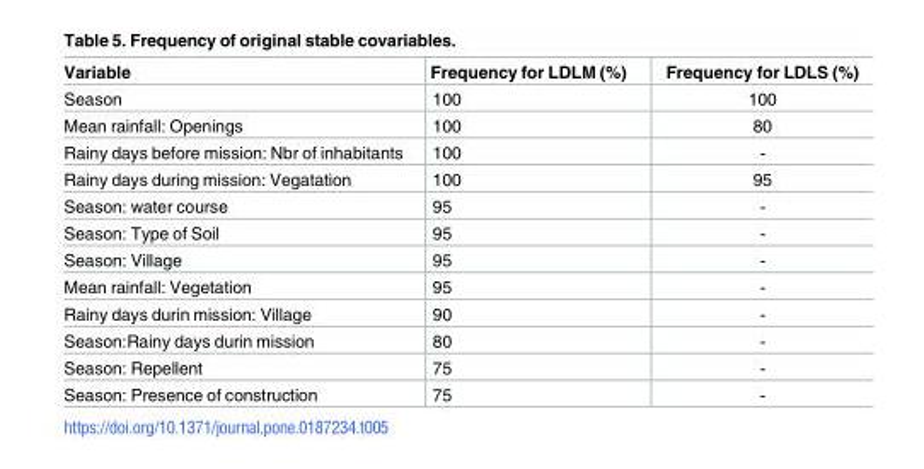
<table><thead><tr><td>Variable</td><td>Frequency for LDLM (%)</td><td>Frequency for LDLS (%)</td></tr></thead><tbody><tr><td>Season</td><td>100</td><td>100</td></tr><tr><td>Mean rainfall: Openings</td><td>100</td><td>80</td></tr><tr><td>Rainy days before mission: Nbr of inhabitants</td><td>100</td><td>-</td></tr><tr><td>Rainy days during mission: Vegatation</td><td>100</td><td>95</td></tr><tr><td>Season: water course</td><td>95</td><td>-</td></tr><tr><td>Season: Type of Soil</td><td>95</td><td>-</td></tr><tr><td>Season: Village</td><td>95</td><td>-</td></tr><tr><td>Mean rainfall: Vegetation</td><td>95</td><td>-</td></tr><tr><td>Rainy days durin mission: Village</td><td>90</td><td>-</td></tr><tr><td>Season:Rainy days durin mission</td><td>80</td><td>-</td></tr><tr><td>Season: Repellent</td><td>75</td><td>-</td></tr><tr><td>Season: Presence of construction</td><td>75</td><td>-</td></tr></tbody></table>